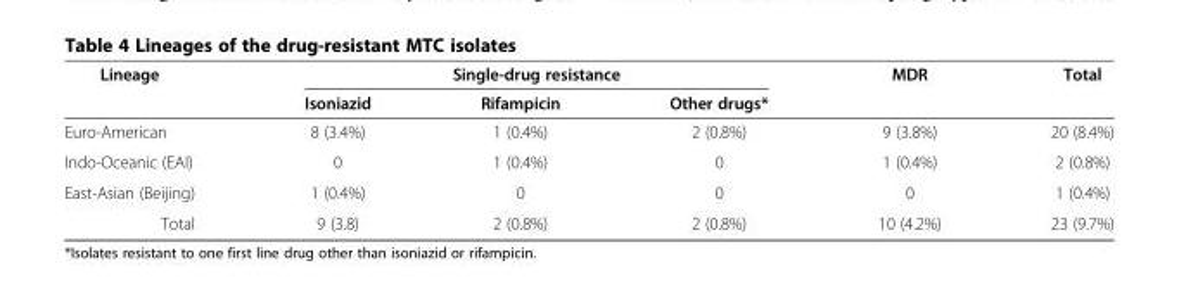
<table><thead><tr><td rowspan="2">Lineage</td><td colspan="3">Single-drug resistance</td><td rowspan="2">MDR</td><td rowspan="2">Total</td></tr><tr><td>Isoniazid</td><td>Rifampicin</td><td>Other drugs*</td></tr></thead><tbody><tr><td>Euro-American</td><td>8 (3.4%)</td><td>1 (0.4%)</td><td>2 (0.8%)</td><td>9 (3.8%)</td><td>20 (8.4%)</td></tr><tr><td>Indo-Oceanic (EAI)</td><td>0</td><td>1 (0.4%)</td><td>0</td><td>1 (0.4%)</td><td>2 (0.8%)</td></tr><tr><td>East-Asian (Beijing)</td><td>1 (0.4%)</td><td>0</td><td>0</td><td>0</td><td>1 (0.4%)</td></tr><tr><td>Total</td><td>9 (3.8)</td><td>2 (0.8%)</td><td>2 (0.8%)</td><td>10 (4.2%)</td><td>23 (9.7%)</td></tr></tbody></table>